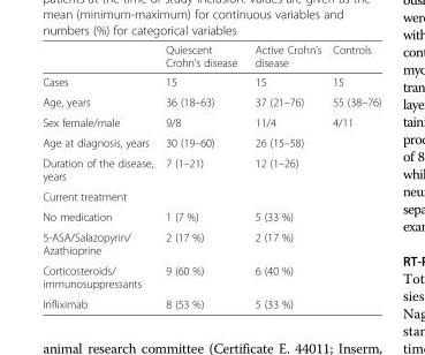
<table><thead><tr><td></td><td>Quiescent Crohn’s disease</td><td>Active Crohn’s disease</td><td>Controls</td></tr></thead><tbody><tr><td>Cases</td><td>15</td><td>15</td><td>15</td></tr><tr><td>Age, years</td><td>36 (18–63)</td><td>37 (21–76)</td><td>55 (38–76)</td></tr><tr><td>Sex female/male</td><td>9/8</td><td>11/4</td><td>4/11</td></tr><tr><td>Age at diagnosis, years</td><td>30 (19–60)</td><td>26 (15–58)</td><td></td></tr><tr><td>Duration of the disease, years</td><td>7 (1–21)</td><td>12 (1–26)</td><td></td></tr><tr><td colspan="4">Current treatment</td></tr><tr><td>No medication</td><td>1 (7 %)</td><td>5 (33 %)</td><td></td></tr><tr><td>5-ASA/Salazopyrin/ Azathioprine</td><td>2 (17 %)</td><td>2 (17 %)</td><td></td></tr><tr><td>Corticosteroids/ immunosuppressants</td><td>9 (60 %)</td><td>6 (40 %)</td><td></td></tr><tr><td>Infliximab</td><td>8 (53 %)</td><td>5 (33 %)</td><td></td></tr></tbody></table>